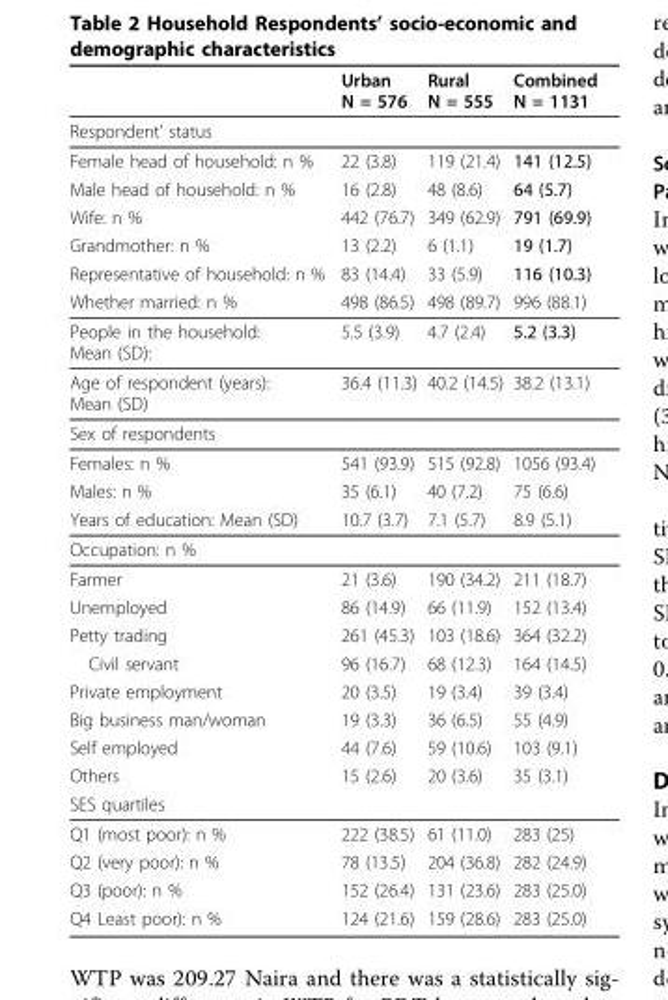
<table><thead><tr><td></td><td>Urban N = 576</td><td>Rural N = 555</td><td>Combined N = 1131</td></tr></thead><tbody><tr><td colspan="4">Respondent’ status</td></tr><tr><td>Female head of household: n %</td><td>22 (3.8)</td><td>119 (21.4)</td><td>141 (12.5)</td></tr><tr><td>Male head of household: n %</td><td>16 (2.8)</td><td>48 (8.6)</td><td>64 (5.7)</td></tr><tr><td>Wife: n %</td><td>442 (76.7)</td><td>349 (62.9)</td><td>791 (69.9)</td></tr><tr><td>Grandmother: n %</td><td>13 (2.2)</td><td>6 (1.1)</td><td>19 (1.7)</td></tr><tr><td>Representative of household: n %</td><td>83 (14.4)</td><td>33 (5.9)</td><td>116 (10.3)</td></tr><tr><td>Whether married: n %</td><td>498 (86.5)</td><td>498 (89.7)</td><td>996 (88.1)</td></tr><tr><td>People in the household: Mean (SD):</td><td>5.5 (3.9)</td><td>4.7 (2.4)</td><td>5.2 (3.3)</td></tr><tr><td>Age of respondent (years): Mean (SD)</td><td>36.4 (11.3)</td><td>40.2 (14.5)</td><td>38.2 (13.1)</td></tr><tr><td colspan="4">Sex of respondents</td></tr><tr><td>Females: n %</td><td>541 (93.9)</td><td>515 (92.8)</td><td>1056 (93.4)</td></tr><tr><td>Males: n %</td><td>35 (6.1)</td><td>40 (7.2)</td><td>75 (6.6)</td></tr><tr><td>Years of education: Mean (SD)</td><td>10.7 (3.7)</td><td>7.1 (5.7)</td><td>8.9 (5.1)</td></tr><tr><td colspan="4">Occupation: n %</td></tr><tr><td>Farmer</td><td>21 (3.6)</td><td>190 (34.2)</td><td>211 (18.7)</td></tr><tr><td>Unemployed</td><td>86 (14.9)</td><td>66 (11.9)</td><td>152 (13.4)</td></tr><tr><td>Petty trading</td><td>261 (45.3)</td><td>103 (18.6)</td><td>364 (32.2)</td></tr><tr><td>Civil servant</td><td>96 (16.7)</td><td>68 (12.3)</td><td>164 (14.5)</td></tr><tr><td>Private employment</td><td>20 (3.5)</td><td>19 (3.4)</td><td>39 (3.4)</td></tr><tr><td>Big business man/woman</td><td>19 (3.3)</td><td>36 (6.5)</td><td>55 (4.9)</td></tr><tr><td>Self employed</td><td>44 (7.6)</td><td>59 (10.6)</td><td>103 (9.1)</td></tr><tr><td>Others</td><td>15 (2.6)</td><td>20 (3.6)</td><td>35 (3.1)</td></tr><tr><td colspan="4">SES quartiles</td></tr><tr><td>Q1 (most poor): n %</td><td>222 (38.5)</td><td>61 (11.0)</td><td>283 (25)</td></tr><tr><td>Q2 (very poor): n %</td><td>78 (13.5)</td><td>204 (36.8)</td><td>282 (24.9)</td></tr><tr><td>Q3 (poor): n %</td><td>152 (26.4)</td><td>131 (23.6)</td><td>283 (25.0)</td></tr><tr><td>Q4 Least poor): n %</td><td>124 (21.6)</td><td>159 (28.6)</td><td>283 (25.0)</td></tr></tbody></table>